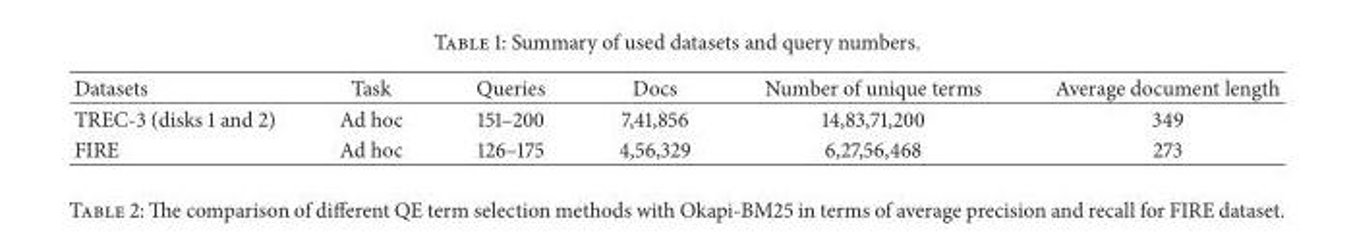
<table><thead><tr><td>Datasets</td><td>Task</td><td>Queries</td><td>Docs</td><td>Number of unique terms</td><td>Average document length</td></tr></thead><tbody><tr><td>TREC-3 (disks 1 and 2)</td><td>Ad hoc</td><td>151–200</td><td>7,41,856</td><td>14,83,71,200</td><td>349</td></tr><tr><td>FIRE</td><td>Ad hoc</td><td>126–175</td><td>4,56,329</td><td>6,27,56,468</td><td>273</td></tr></tbody></table>